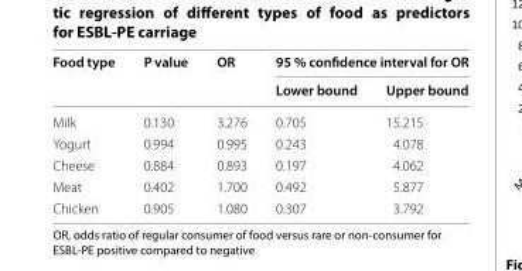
<table><thead><tr><td rowspan="2">Food type</td><td rowspan="2">P value</td><td rowspan="2">OR</td><td colspan="2">95 % confidence interval for OR</td></tr><tr><td>Lower bound</td><td>Upper bound</td></tr></thead><tbody><tr><td>Milk</td><td>0.130</td><td>3.276</td><td>0.705</td><td>15.215</td></tr><tr><td>Yogurt</td><td>0.994</td><td>0.995</td><td>0.243</td><td>4.078</td></tr><tr><td>Cheese</td><td>0.884</td><td>0.893</td><td>0.197</td><td>4.062</td></tr><tr><td>Meat</td><td>0.402</td><td>1.700</td><td>0.492</td><td>5.877</td></tr><tr><td>Chicken</td><td>0.905</td><td>1.080</td><td>0.307</td><td>3.792</td></tr></tbody></table>